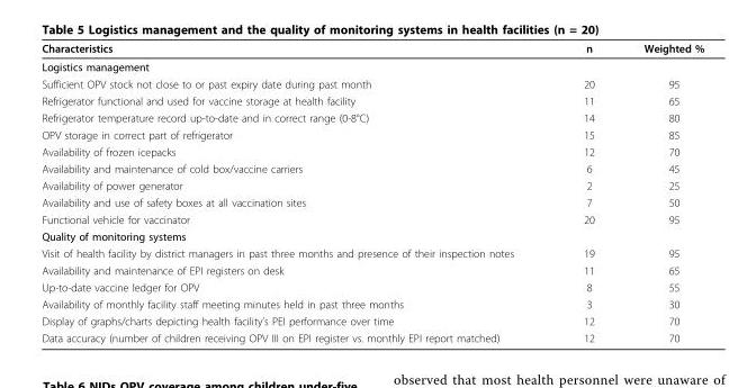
<table><thead><tr><td>Characteristics</td><td>n</td><td>Weighted %</td></tr></thead><tbody><tr><td colspan="3">Logistics management</td></tr><tr><td>Sufficient OPV stock not close to or past expiry date during past month</td><td>20</td><td>95</td></tr><tr><td>Refrigerator functional and used for vaccine storage at health facility</td><td>11</td><td>65</td></tr><tr><td>Refrigerator temperature record up-to-date and in correct range (0-8°C)</td><td>14</td><td>80</td></tr><tr><td>OPV storage in correct part of refrigerator</td><td>15</td><td>85</td></tr><tr><td>Availability of frozen icepacks</td><td>12</td><td>70</td></tr><tr><td>Availability and maintenance of cold box/vaccine carriers</td><td>6</td><td>45</td></tr><tr><td>Availability of power generator</td><td>2</td><td>25</td></tr><tr><td>Availability and use of safety boxes at all vaccination sites</td><td>7</td><td>50</td></tr><tr><td>Functional vehicle for vaccinator</td><td>20</td><td>95</td></tr><tr><td colspan="3">Quality of monitoring systems</td></tr><tr><td>Visit of health facility by district managers in past three months and presence of their inspection notes</td><td>19</td><td>95</td></tr><tr><td>Availability and maintenance of EPI registers on desk</td><td>11</td><td>65</td></tr><tr><td>Up-to-date vaccine ledger for OPV</td><td>8</td><td>55</td></tr><tr><td>Availability of monthly facility staff meeting minutes held in past three months</td><td>3</td><td>30</td></tr><tr><td>Display of graphs/charts depicting health facility’s PEI performance over time</td><td>12</td><td>70</td></tr><tr><td>Data accuracy (number of children receiving OPV III on EPI register vs. monthly EPI report matched)</td><td>12</td><td>70</td></tr></tbody></table>